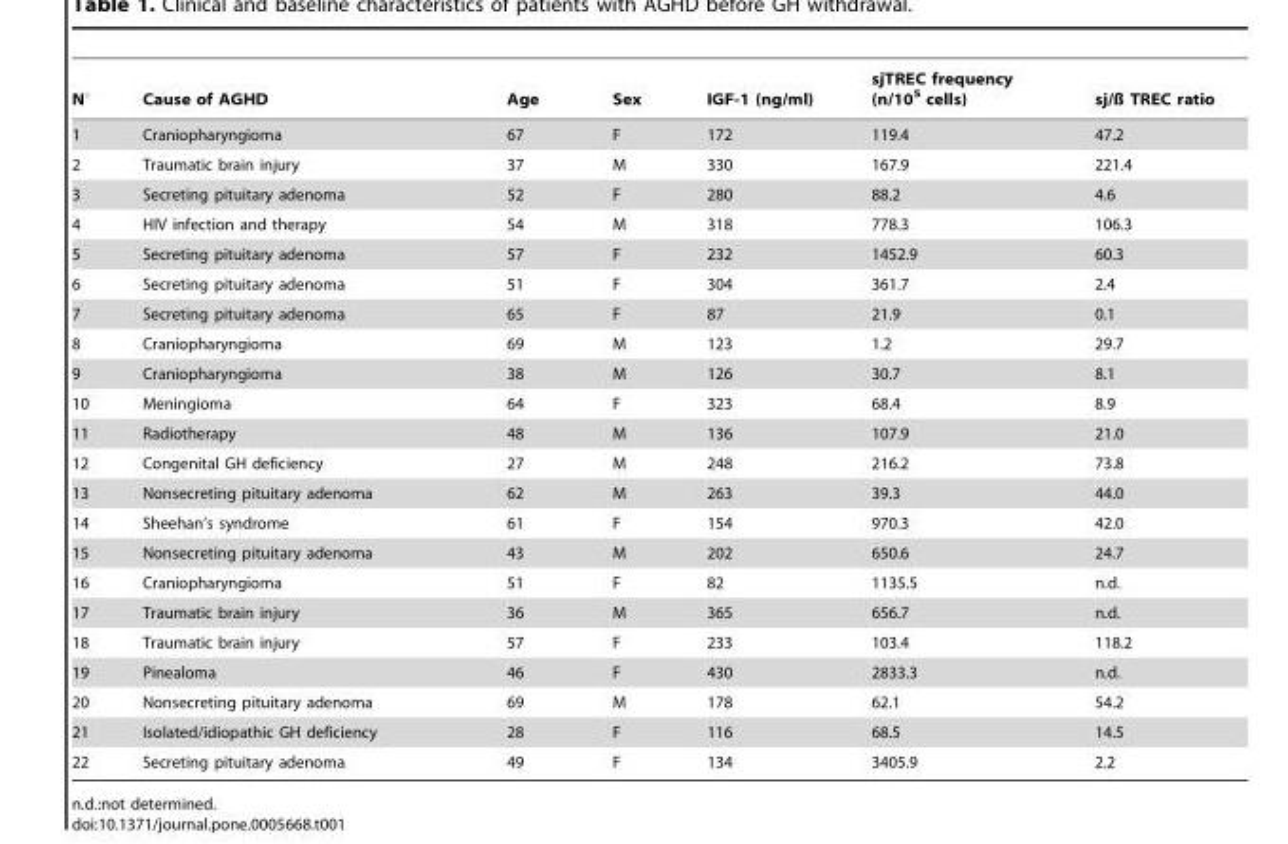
<table><thead><tr><td>N°</td><td>Cause of AGHD</td><td>Age</td><td>Sex</td><td>IGF-1 (ng/ml)</td><td>sjTREC frequency (n/10<sup>5</sup> cells)</td><td>sj/ß TREC ratio</td></tr></thead><tbody><tr><td>1</td><td>Craniopharyngioma</td><td>67</td><td>F</td><td>172</td><td>119.4</td><td>47.2</td></tr><tr><td>2</td><td>Traumatic brain injury</td><td>37</td><td>M</td><td>330</td><td>167.9</td><td>221.4</td></tr><tr><td>3</td><td>Secreting pituitary adenoma</td><td>52</td><td>F</td><td>280</td><td>88.2</td><td>4.6</td></tr><tr><td>4</td><td>HIV infection and therapy</td><td>54</td><td>M</td><td>318</td><td>778.3</td><td>106.3</td></tr><tr><td>5</td><td>Secreting pituitary adenoma</td><td>57</td><td>F</td><td>232</td><td>1452.9</td><td>60.3</td></tr><tr><td>6</td><td>Secreting pituitary adenoma</td><td>51</td><td>F</td><td>304</td><td>361.7</td><td>2.4</td></tr><tr><td>7</td><td>Secreting pituitary adenoma</td><td>65</td><td>F</td><td>87</td><td>21.9</td><td>0.1</td></tr><tr><td>8</td><td>Craniopharyngioma</td><td>69</td><td>M</td><td>123</td><td>1.2</td><td>29.7</td></tr><tr><td>9</td><td>Craniopharyngioma</td><td>38</td><td>M</td><td>126</td><td>30.7</td><td>8.1</td></tr><tr><td>10</td><td>Meningioma</td><td>64</td><td>F</td><td>323</td><td>68.4</td><td>8.9</td></tr><tr><td>11</td><td>Radiotherapy</td><td>48</td><td>M</td><td>136</td><td>107.9</td><td>21.0</td></tr><tr><td>12</td><td>Congenital GH deficiency</td><td>27</td><td>M</td><td>248</td><td>216.2</td><td>73.8</td></tr><tr><td>13</td><td>Nonsecreting pituitary adenoma</td><td>62</td><td>M</td><td>263</td><td>39.3</td><td>44.0</td></tr><tr><td>14</td><td>Sheehan’s syndrome</td><td>61</td><td>F</td><td>154</td><td>970.3</td><td>42.0</td></tr><tr><td>15</td><td>Nonsecreting pituitary adenoma</td><td>43</td><td>M</td><td>202</td><td>650.6</td><td>24.7</td></tr><tr><td>16</td><td>Craniopharyngioma</td><td>51</td><td>F</td><td>82</td><td>1135.5</td><td>n.d.</td></tr><tr><td>17</td><td>Traumatic brain injury</td><td>36</td><td>M</td><td>365</td><td>656.7</td><td>n.d.</td></tr><tr><td>18</td><td>Traumatic brain injury</td><td>57</td><td>F</td><td>233</td><td>103.4</td><td>118.2</td></tr><tr><td>19</td><td>Pinealoma</td><td>46</td><td>F</td><td>430</td><td>2833.3</td><td>n.d.</td></tr><tr><td>20</td><td>Nonsecreting pituitary adenoma</td><td>69</td><td>M</td><td>178</td><td>62.1</td><td>54.2</td></tr><tr><td>21</td><td>Isolated/idiopathic GH deficiency</td><td>28</td><td>F</td><td>116</td><td>68.5</td><td>14.5</td></tr><tr><td>22</td><td>Secreting pituitary adenoma</td><td>49</td><td>F</td><td>134</td><td>3405.9</td><td>2.2</td></tr></tbody></table>